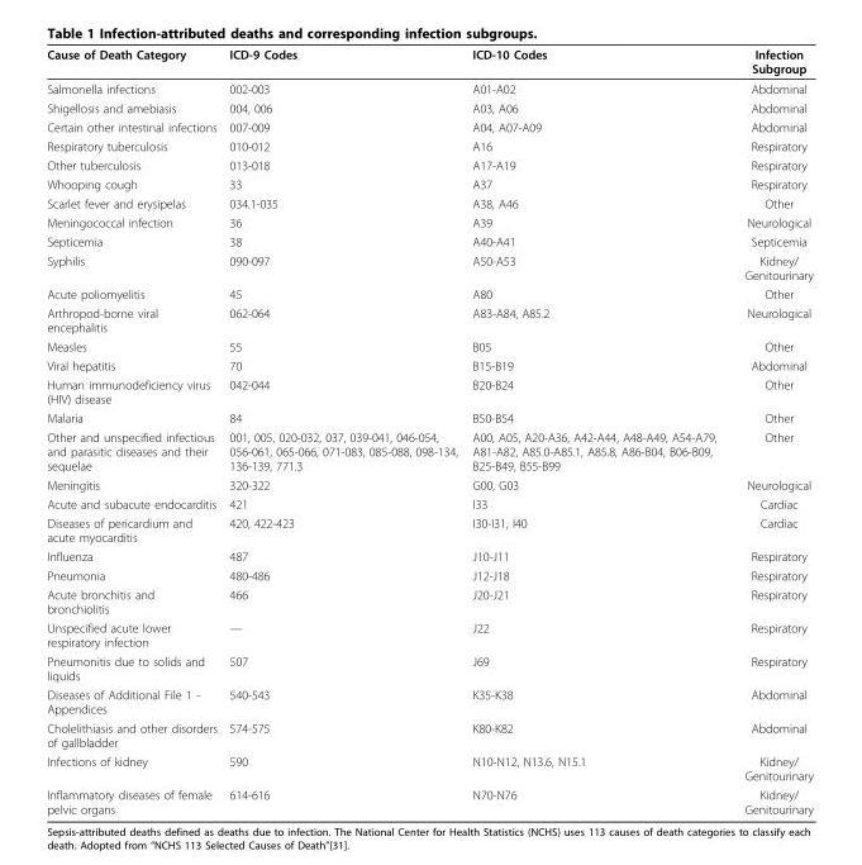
<table><thead><tr><td>Cause of Death Category</td><td>ICD-9 Codes</td><td>ICD-10 Codes</td><td>Infection Subgroup</td></tr></thead><tbody><tr><td>Salmonella infections</td><td>002-003</td><td>A01-A02</td><td>Abdominal</td></tr><tr><td>Shigellosis and amebiasis</td><td>004, 006</td><td>A03, A06</td><td>Abdominal</td></tr><tr><td>Certain other intestinal infections</td><td>007-009</td><td>A04, A07-A09</td><td>Abdominal</td></tr><tr><td>Respiratory tuberculosis</td><td>010-012</td><td>A16</td><td>Respiratory</td></tr><tr><td>Other tuberculosis</td><td>013-018</td><td>A17-A19</td><td>Respiratory</td></tr><tr><td>Whooping cough</td><td>33</td><td>A37</td><td>Respiratory</td></tr><tr><td>Scarlet fever and erysipelas</td><td>034.1-035</td><td>A38, A46</td><td>Other</td></tr><tr><td>Meningococcal infection</td><td>36</td><td>A39</td><td>Neurological</td></tr><tr><td>Septicemia</td><td>38</td><td>A40-A41</td><td>Septicemia</td></tr><tr><td>Syphilis</td><td>090-097</td><td>A50-A53</td><td>Kidney/ Genitourinary</td></tr><tr><td>Acute poliomyelitis</td><td>45</td><td>A80</td><td>Other</td></tr><tr><td>Arthropod-borne viral encephalitis</td><td>062-064</td><td>A83-A84, A85.2</td><td>Neurological</td></tr><tr><td>Measles</td><td>55</td><td>B05</td><td>Other</td></tr><tr><td>Viral hepatitis</td><td>70</td><td>B15-B19</td><td>Abdominal</td></tr><tr><td>Human immunodeficiency virus (HIV) disease</td><td>042-044</td><td>B20-B24</td><td>Other</td></tr><tr><td>Malaria</td><td>84</td><td>B50-B54</td><td>Other</td></tr><tr><td>Other and unspecified infectious and parasitic diseases and their sequelae</td><td>001, 005, 020-032, 037, 039-041, 046-054, 056-061, 065-066, 071-083, 085-088, 098-134, 136-139, 771.3</td><td>A00, A05, A20-A36, A42-A44, A48-A49, A54-A79, A81-A82, A85.0-A85.1, A85.8, A86-B04, B06-B09, B25-B49, B55-B99</td><td>Other</td></tr><tr><td>Meningitis</td><td>320-322</td><td>G00, G03</td><td>Neurological</td></tr><tr><td>Acute and subacute endocarditis</td><td>421</td><td>I33</td><td>Cardiac</td></tr><tr><td>Diseases of pericardium and acute myocarditis</td><td>420, 422-423</td><td>I30-I31, I40</td><td>Cardiac</td></tr><tr><td>Influenza</td><td>487</td><td>J10-J11</td><td>Respiratory</td></tr><tr><td>Pneumonia</td><td>480-486</td><td>J12-J18</td><td>Respiratory</td></tr><tr><td>Acute bronchitis and bronchiolitis</td><td>466</td><td>J20-J21</td><td>Respiratory</td></tr><tr><td>Unspecified acute lower respiratory infection</td><td>—</td><td>J22</td><td>Respiratory</td></tr><tr><td>Pneumonitis due to solids and liquids</td><td>507</td><td>J69</td><td>Respiratory</td></tr><tr><td>Diseases of Additional File 1 - Appendices</td><td>540-543</td><td>K35-K38</td><td>Abdominal</td></tr><tr><td>Cholelithiasis and other disorders of gallbladder</td><td>574-575</td><td>K80-K82</td><td>Abdominal</td></tr><tr><td>Infections of kidney</td><td>590</td><td>N10-N12, N13.6, N15.1</td><td>Kidney/ Genitourinary</td></tr><tr><td>Inflammatory diseases of female pelvic organs</td><td>614-616</td><td>N70-N76</td><td>Kidney/ Genitourinary</td></tr></tbody></table>